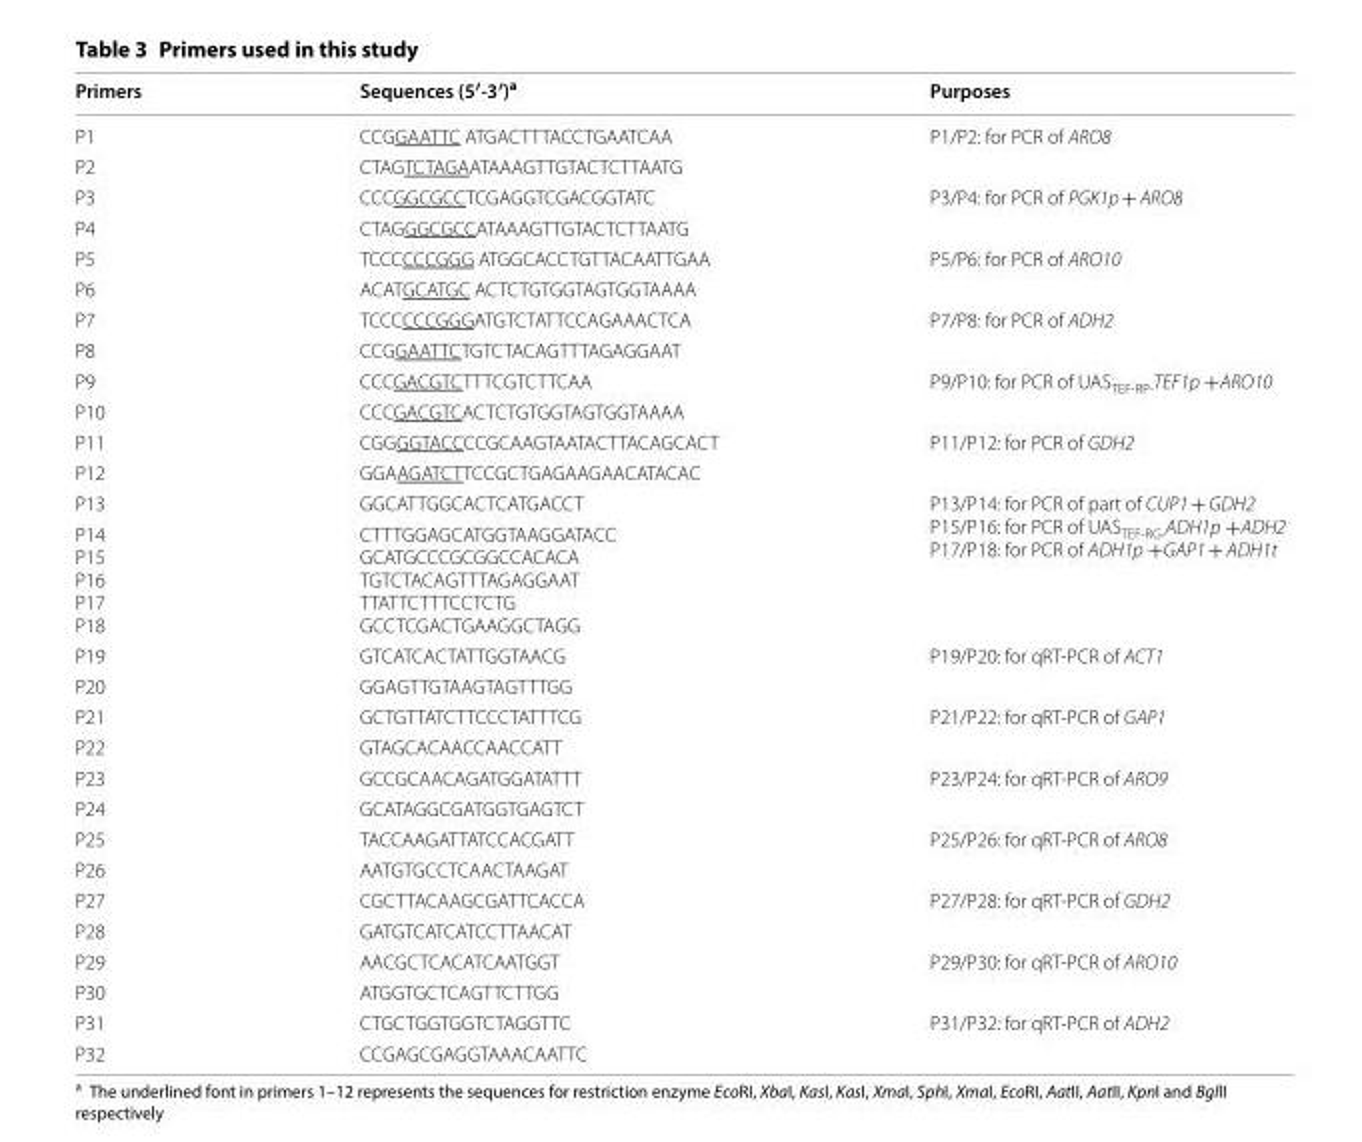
<table><thead><tr><td>Primers</td><td>Sequences (5′‑3′)<sup>a</sup></td><td>Purposes</td></tr></thead><tbody><tr><td>P1</td><td>CCG GAA TTC ATG ACT TTA CCT GAA TCA A</td><td rowspan="2">P1/P2: for PCR of ARO8</td></tr><tr><td>P2</td><td>CTAG TCT AGA ATA AAG TTG TAC TCT TAA TG</td></tr><tr><td>P3</td><td>CCC GGC GCC TCG AGG TCG ACG GTATC</td><td rowspan="2">P3/P4: for PCR of PGK1p + ARO8</td></tr><tr><td>P4</td><td>CTAG GGC GCC ATA AAG TTG TAC TCT TAA TG</td></tr><tr><td>P5</td><td>TCCC CCC GGG ATG GCA CCT GTT ACA ATT GAA</td><td rowspan="2">P5/P6: for PCR of ARO10</td></tr><tr><td>P6</td><td>ACAT GCA TGC ACT CTG TGG TAG TGG TAA AA</td></tr><tr><td>P7</td><td>TCCC CCC GGG ATG TCT ATT CCA GAA ACT CA</td><td rowspan="2">P7/P8: for PCR of ADH2</td></tr><tr><td>P8</td><td>CCG GAA TTC TGT CTA CAG TTT AGA GGA AT</td></tr><tr><td>P9</td><td>CCC GAC GTC TTT CGT CTT CAA</td><td rowspan="2">P9/P10: for PCR of UAS<sub>TEF-RP-</sub>TEF1p +ARO10</td></tr><tr><td>P10</td><td>CCC GAC GTC ACT CTG TGG TAG TGG TAA AA</td></tr><tr><td>P11</td><td>CGG GGT ACC CCG CAA GTA ATA CTT ACA GCACT</td><td rowspan="2">P11/P12: for PCR of GDH2</td></tr><tr><td>P12</td><td>GGA AGA TCT TCC GCT GAG AAG AAC ATA CAC</td></tr><tr><td>P13</td><td>GGC ATT GGC ACT CAT GAC CT</td><td rowspan="2">P13/P14: for PCR of part of CUP1 + GDH2 P15/P16: for PCR of UAS<sub>TEF-RG-</sub>ADH1p +ADH2 P17/P18: for PCR of ADH1p +GAP1 + ADH1t</td></tr><tr><td>P14 P15 P16 P17 P18</td><td>CTT TGG AGC ATG GTA AGG ATACC GCA TGC CCG CGG CCA CAC A TGT CTA CAG TTT AGA GGA AT TTA TTC TTT CCT CTG GCC TCG ACT GAA GGC TAG G</td></tr><tr><td>P19</td><td>GTC ATC ACT ATT GGT AAC G</td><td rowspan="2">P19/P20: for qRT-PCR of ACT1</td></tr><tr><td>P20</td><td>GGA GTT GTA AGT AGT TTG G</td></tr><tr><td>P21</td><td>GCT GTT ATC TTC CCT ATT TCG</td><td rowspan="2">P21/P22: for qRT-PCR of GAP1</td></tr><tr><td>P22</td><td>GTA GCA CAA CCA ACC ATT</td></tr><tr><td>P23</td><td>GCC GCA ACA GAT GGA TAT TT</td><td rowspan="2">P23/P24: for qRT-PCR of ARO9</td></tr><tr><td>P24</td><td>GCA TAG GCG ATG GTG AGT CT</td></tr><tr><td>P25</td><td>TAC CAA GAT TAT CCA CGA TT</td><td rowspan="2">P25/P26: for qRT-PCR of ARO8</td></tr><tr><td>P26</td><td>AAT GTG CCT CAA CTA AGA T</td></tr><tr><td>P27</td><td>CGC TTA CAA GCG ATT CAC CA</td><td rowspan="2">P27/P28: for qRT-PCR of GDH2</td></tr><tr><td>P28</td><td>GAT GTC ATC ATC CTT AAC AT</td></tr><tr><td>P29</td><td>AAC GCT CAC ATC AAT GGT</td><td rowspan="2">P29/P30: for qRT-PCR of ARO10</td></tr><tr><td>P30</td><td>ATG GTG CTC AGT TCT TGG</td></tr><tr><td>P31</td><td>CTG CTG GTG GTC TAG GTT C</td><td rowspan="2">P31/P32: for qRT-PCR of ADH2</td></tr><tr><td>P32</td><td>CCG AGC GAG GTA AAC AAT TC</td></tr></tbody></table>